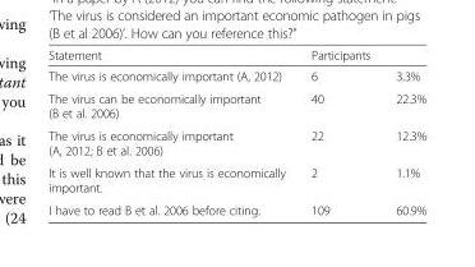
<table><thead><tr><td>Statement</td><td>Participants</td><td></td></tr></thead><tbody><tr><td>The virus is economically important (A, 2012)</td><td>6</td><td>3.3%</td></tr><tr><td>The virus can be economically important (B et al. 2006)</td><td>40</td><td>22.3%</td></tr><tr><td>The virus is economically important (A, 2012; B et al. 2006)</td><td>22</td><td>12.3%</td></tr><tr><td>It is well known that the virus is economically important.</td><td>2</td><td>1.1%</td></tr><tr><td>I have to read B et al. 2006 before citing.</td><td>109</td><td>60.9%</td></tr></tbody></table>